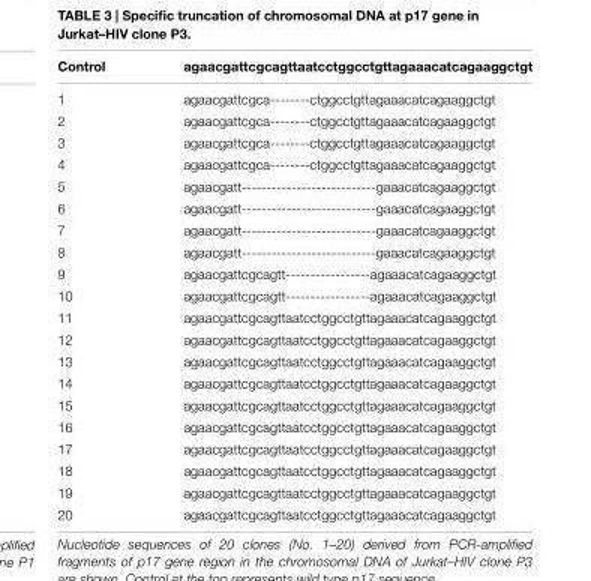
<table><thead><tr><td>Control</td><td>agaacgattcgcagttaatcctggcctgttagaaacatcagaaggctgt</td></tr></thead><tbody><tr><td>1</td><td>agaacgattcgca--------ctggcctgttagaaacatcagaaggctgt</td></tr><tr><td>2</td><td>agaacgattcgca--------ctggcctgttagaaacatcagaaggctgt</td></tr><tr><td>3</td><td>agaacgattcgca--------ctggcctgttagaaacatcagaaggctgt</td></tr><tr><td>4</td><td>agaacgattcgca--------ctggcctgttagaaacatcagaaggctgt</td></tr><tr><td>5</td><td>agaacgatt---------------------------gaaacatcagaaggctgt</td></tr><tr><td>6</td><td>agaacgatt---------------------------gaaacatcagaaggctgt</td></tr><tr><td>7</td><td>agaacgatt---------------------------gaaacatcagaaggctgt</td></tr><tr><td>8</td><td>agaacgatt---------------------------gaaacatcagaaggctgt</td></tr><tr><td>9</td><td>agaacgattcgcagtt-----------------agaaacatcagaaggctgt</td></tr><tr><td>10</td><td>agaacgattcgcagtt-----------------agaaacatcagaaggctgt</td></tr><tr><td>11</td><td>agaacgattcgcagttaatcctggcctgttagaaacatcagaaggctgt</td></tr><tr><td>12</td><td>agaacgattcgcagttaatcctggcctgttagaaacatcagaaggctgt</td></tr><tr><td>13</td><td>agaacgattcgcagttaatcctggcctgttagaaacatcagaaggctgt</td></tr><tr><td>14</td><td>agaacgattcgcagttaatcctggcctgttagaaacatcagaaggctgt</td></tr><tr><td>15</td><td>agaacgattcgcagttaatcctggcctgttagaaacatcagaaggctgt</td></tr><tr><td>16</td><td>agaacgattcgcagttaatcctggcctgttagaaacatcagaaggctgt</td></tr><tr><td>17</td><td>agaacgattcgcagttaatcctggcctgttagaaacatcagaaggctgt</td></tr><tr><td>18</td><td>agaacgattcgcagttaatcctggcctgttagaaacatcagaaggctgt</td></tr><tr><td>19</td><td>agaacgattcgcagttaatcctggcctgttagaaacatcagaaggctgt</td></tr><tr><td>20</td><td>agaacgattcgcagttaatcctggcctgttagaaacatcagaaggctgt</td></tr></tbody></table>